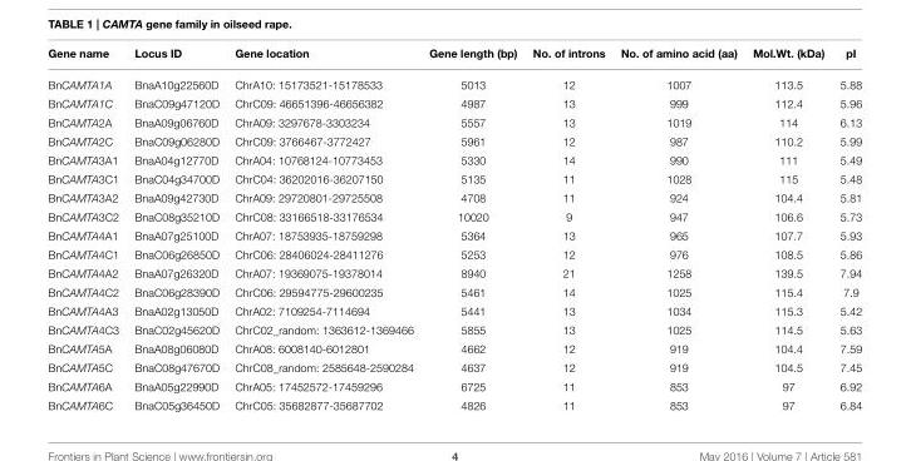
<table><thead><tr><td>Gene name</td><td>Locus ID</td><td>Gene location</td><td>Gene length (bp)</td><td>No. of introns</td><td>No. of amino acid (aa)</td><td>Mol.Wt. (kDa)</td><td>pI</td></tr></thead><tbody><tr><td>BnCAMTA1A</td><td>BnaA10g22560D</td><td>ChrA10: 15173521-15178533</td><td>5013</td><td>12</td><td>1007</td><td>113.5</td><td>5.88</td></tr><tr><td>BnCAMTA1C</td><td>BnaC09g47120D</td><td>ChrC09: 46651396-46656382</td><td>4987</td><td>13</td><td>999</td><td>112.4</td><td>5.96</td></tr><tr><td>BnCAMTA2A</td><td>BnaA09g06760D</td><td>ChrA09: 3297678-3303234</td><td>5557</td><td>13</td><td>1019</td><td>114</td><td>6.13</td></tr><tr><td>BnCAMTA2C</td><td>BnaC09g06280D</td><td>ChrC09: 3766467-3772427</td><td>5961</td><td>12</td><td>987</td><td>110.2</td><td>5.99</td></tr><tr><td>BnCAMTA3A1</td><td>BnaA04g12770D</td><td>ChrA04: 10768124-10773453</td><td>5330</td><td>14</td><td>990</td><td>111</td><td>5.49</td></tr><tr><td>BnCAMTA3C1</td><td>BnaC04g34700D</td><td>ChrC04: 36202016-36207150</td><td>5135</td><td>11</td><td>1028</td><td>115</td><td>5.48</td></tr><tr><td>BnCAMTA3A2</td><td>BnaA09g42730D</td><td>ChrA09: 29720801-29725508</td><td>4708</td><td>11</td><td>924</td><td>104.4</td><td>5.81</td></tr><tr><td>BnCAMTA3C2</td><td>BnaC08g35210D</td><td>ChrC08: 33166518-33176534</td><td>10020</td><td>9</td><td>947</td><td>106.6</td><td>5.73</td></tr><tr><td>BnCAMTA4A1</td><td>BnaA07g25100D</td><td>ChrA07: 18753935-18759298</td><td>5364</td><td>13</td><td>965</td><td>107.7</td><td>5.93</td></tr><tr><td>BnCAMTA4C1</td><td>BnaC06g26850D</td><td>ChrC06: 28406024-28411276</td><td>5253</td><td>12</td><td>976</td><td>108.5</td><td>5.86</td></tr><tr><td>BnCAMTA4A2</td><td>BnaA07g26320D</td><td>ChrA07: 19369075-19378014</td><td>8940</td><td>21</td><td>1258</td><td>139.5</td><td>7.94</td></tr><tr><td>BnCAMTA4C2</td><td>BnaC06g28390D</td><td>ChrC06: 29594775-29600235</td><td>5461</td><td>14</td><td>1025</td><td>115.4</td><td>7.9</td></tr><tr><td>BnCAMTA4A3</td><td>BnaA02g13050D</td><td>ChrA02: 7109254-7114694</td><td>5441</td><td>13</td><td>1034</td><td>115.3</td><td>5.42</td></tr><tr><td>BnCAMTA4C3</td><td>BnaC02g45620D</td><td>ChrC02_random: 1363612-1369466</td><td>5855</td><td>13</td><td>1025</td><td>114.5</td><td>5.63</td></tr><tr><td>BnCAMTA5A</td><td>BnaA08g06080D</td><td>ChrA08: 6008140-6012801</td><td>4662</td><td>12</td><td>919</td><td>104.4</td><td>7.59</td></tr><tr><td>BnCAMTA5C</td><td>BnaC08g47670D</td><td>ChrC08_random: 2585648-2590284</td><td>4637</td><td>12</td><td>919</td><td>104.5</td><td>7.45</td></tr><tr><td>BnCAMTA6A</td><td>BnaA05g22990D</td><td>ChrA05: 17452572-17459296</td><td>6725</td><td>11</td><td>853</td><td>97</td><td>6.92</td></tr><tr><td>BnCAMTA6C</td><td>BnaC05g36450D</td><td>ChrC05: 35682877-35687702</td><td>4826</td><td>11</td><td>853</td><td>97</td><td>6.84</td></tr></tbody></table>